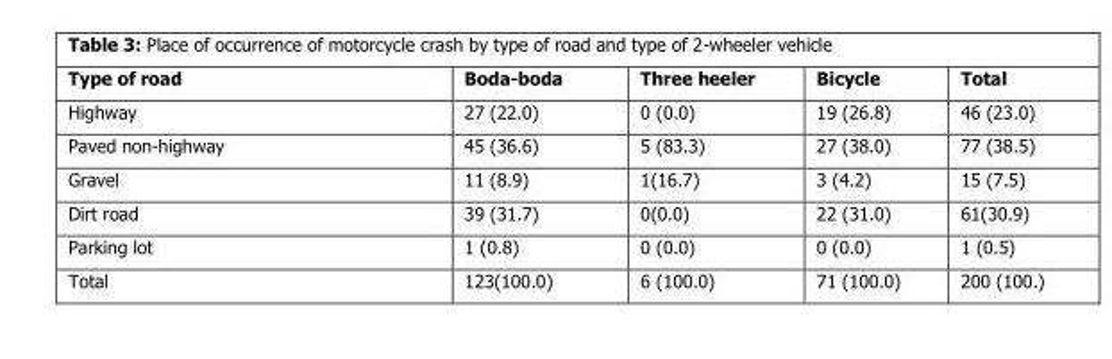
<table><thead><tr><td>Type of road</td><td>Boda-boda</td><td>Three heeler</td><td>Bicycle</td><td>Total</td></tr></thead><tbody><tr><td>Highway</td><td>27 (22.0)</td><td>0 (0.0)</td><td>19 (26.8)</td><td>46 (23.0)</td></tr><tr><td>Paved non-highway</td><td>45 (36.6)</td><td>5 (83.3)</td><td>27 (38.0)</td><td>77 (38.5)</td></tr><tr><td>Gravel</td><td>11 (8.9)</td><td>1(16.7)</td><td>3 (4.2)</td><td>15 (7.5)</td></tr><tr><td>Dirt road</td><td>39 (31.7)</td><td>0(0.0)</td><td>22 (31.0)</td><td>61(30.9)</td></tr><tr><td>Parking lot</td><td>1 (0.8)</td><td>0 (0.0)</td><td>0 (0.0)</td><td>1 (0.5)</td></tr><tr><td>Total</td><td>123(100.0)</td><td>6 (100.0)</td><td>71 (100.0)</td><td>200 (100.)</td></tr></tbody></table>